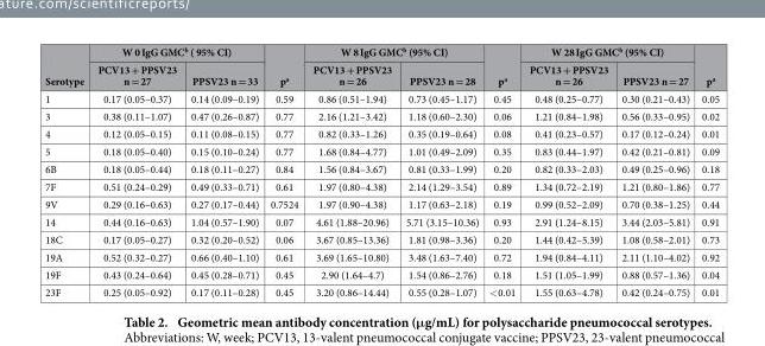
<table><thead><tr><td rowspan="2">Serotype</td><td colspan="2">W 0 IgG GMC<sup>b</sup> ( 95% CI)</td><td rowspan="2">p<sup>a</sup></td><td colspan="2">W 8 IgG GMC<sup>b</sup> (95% CI)</td><td rowspan="2">p<sup>a</sup></td><td colspan="2">W 28 IgG GMC<sup>b</sup> (95% CI)</td><td rowspan="2">p<sup>a</sup></td></tr><tr><td>PCV13 + PPSV23 n = 27</td><td>PPSV23 n = 33</td><td>PCV13 + PPSV23 n = 26</td><td>PPSV23 n = 28</td><td>PCV13 + PPSV23 n = 26</td><td>PPSV23 n = 27</td></tr></thead><tbody><tr><td>1</td><td>0.17 (0.05–0.37)</td><td>0.14 (0.09–0.19)</td><td>0.59</td><td>0.86 (0.51–1.94)</td><td>0.73 (0.45–1.17)</td><td>0.45</td><td>0.48 (0.25–0.77)</td><td>0.30 (0.21–0.43)</td><td>0.05</td></tr><tr><td>3</td><td>0.38 (0.11–1.07)</td><td>0.47 (0.26–0.87)</td><td>0.77</td><td>2.16 (1.21–3.42)</td><td>1.18 (0.60–2.30)</td><td>0.06</td><td>1.21 (0.84–1.98)</td><td>0.56 (0.33–0.95)</td><td>0.02</td></tr><tr><td>4</td><td>0.12 (0.05–0.15)</td><td>0.11 (0.08–0.15)</td><td>0.77</td><td>0.82 (0.33–1.26)</td><td>0.35 (0.19–0.64)</td><td>0.08</td><td>0.41 (0.23–0.57)</td><td>0.17 (0.12–0.24)</td><td>0.01</td></tr><tr><td>5</td><td>0.18 (0.05–0.40)</td><td>0.15 (0.10–0.24)</td><td>0.77</td><td>1.68 (0.84–4.77)</td><td>1.01 (0.49–2.09)</td><td>0.35</td><td>0.83 (0.44–1.97)</td><td>0.42 (0.21–0.81)</td><td>0.09</td></tr><tr><td>6B</td><td>0.18 (0.05–0.44)</td><td>0.18 (0.11–0.27)</td><td>0.84</td><td>1.56 (0.84–3.67)</td><td>0.81 (0.33–1.99)</td><td>0.20</td><td>0.82 (0.33–2.03)</td><td>0.49 (0.25–0.96)</td><td>0.18</td></tr><tr><td>7F</td><td>0.51 (0.24–0.29)</td><td>0.49 (0.33–0.71)</td><td>0.61</td><td>1.97 (0.80–4.38)</td><td>2.14 (1.29–3.54)</td><td>0.89</td><td>1.34 (0.72–2.19)</td><td>1.21 (0.80–1.86)</td><td>0.77</td></tr><tr><td>9V</td><td>0.29 (0.16–0.63)</td><td>0.27 (0.17–0.44)</td><td>0.7524</td><td>1.97 (0.90–4.38)</td><td>1.17 (0.63–2.18)</td><td>0.19</td><td>0.99 (0.52–2.09)</td><td>0.70 (0.38–1.25)</td><td>0.44</td></tr><tr><td>14</td><td>0.44 (0.16–0.63)</td><td>1.04 (0.57–1.90)</td><td>0.07</td><td>4.61 (1.88–20.96)</td><td>5.71 (3.15–10.36)</td><td>0.93</td><td>2.91 (1.24–8.15)</td><td>3.44 (2.03–5.81)</td><td>0.91</td></tr><tr><td>18C</td><td>0.17 (0.05–0.27)</td><td>0.32 (0.20–0.52)</td><td>0.06</td><td>3.67 (0.85–13.36)</td><td>1.81 (0.98–3.36)</td><td>0.20</td><td>1.44 (0.42–5.39)</td><td>1.08 (0.58–2.01)</td><td>0.73</td></tr><tr><td>19A</td><td>0.52 (0.32–0.27)</td><td>0.66 (0.40–1.10)</td><td>0.61</td><td>3.69 (1.65–10.80)</td><td>3.48 (1.63–7.40)</td><td>0.72</td><td>1.94 (0.84–4.11)</td><td>2.11 (1.10–4.02)</td><td>0.92</td></tr><tr><td>19F</td><td>0.43 (0.24–0.64)</td><td>0.45 (0.28–0.71)</td><td>0.45</td><td>2.90 (1.64–4.7)</td><td>1.54 (0.86–2.76)</td><td>0.18</td><td>1.51 (1.05–1.99)</td><td>0.88 (0.57–1.36)</td><td>0.04</td></tr><tr><td>23F</td><td>0.25 (0.05–0.92)</td><td>0.17 (0.11–0.28)</td><td>0.45</td><td>3.20 (0.86–14.44)</td><td>0.55 (0.28–1.07)</td><td>&lt; 0.01</td><td>1.55 (0.63–4.78)</td><td>0.42 (0.24–0.75)</td><td>0.01</td></tr></tbody></table>